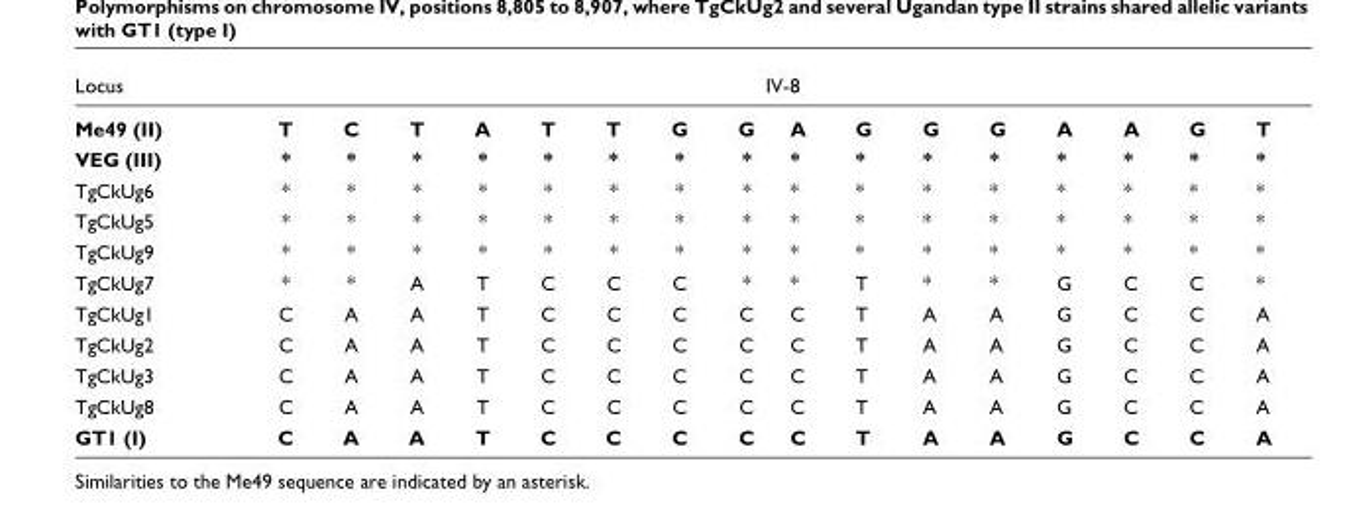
<table><thead><tr><td rowspan="2">Locus Me49 (II)</td><td colspan="16">IV-8</td></tr><tr><td>T</td><td>C</td><td>T</td><td>A</td><td>T</td><td>T</td><td>G</td><td>G</td><td>A</td><td>G</td><td>G</td><td>G</td><td>A</td><td>A</td><td>G</td><td>T</td></tr></thead><tbody><tr><td>VEG (III)</td><td>*</td><td>*</td><td>*</td><td>*</td><td>*</td><td>*</td><td>*</td><td>*</td><td>*</td><td>*</td><td>*</td><td>*</td><td>*</td><td>*</td><td>*</td><td>*</td></tr><tr><td>TgCkUg6</td><td>*</td><td>*</td><td>*</td><td>*</td><td>*</td><td>*</td><td>*</td><td>*</td><td>*</td><td>*</td><td>*</td><td>*</td><td>*</td><td>*</td><td>*</td><td>*</td></tr><tr><td>TgCkUg5</td><td>*</td><td>*</td><td>*</td><td>*</td><td>*</td><td>*</td><td>*</td><td>*</td><td>*</td><td>*</td><td>*</td><td>*</td><td>*</td><td>*</td><td>*</td><td>*</td></tr><tr><td>TgCkUg9</td><td>*</td><td>*</td><td>*</td><td>*</td><td>*</td><td>*</td><td>*</td><td>*</td><td>*</td><td>*</td><td>*</td><td>*</td><td>*</td><td>*</td><td>*</td><td>*</td></tr><tr><td>TgCkUg7</td><td>*</td><td>*</td><td>A</td><td>T</td><td>C</td><td>C</td><td>C</td><td>*</td><td>*</td><td>T</td><td>*</td><td>*</td><td>G</td><td>C</td><td>C</td><td>*</td></tr><tr><td>TgCkUg1</td><td>C</td><td>A</td><td>A</td><td>T</td><td>C</td><td>C</td><td>C</td><td>C</td><td>C</td><td>T</td><td>A</td><td>A</td><td>G</td><td>C</td><td>C</td><td>A</td></tr><tr><td>TgCkUg2</td><td>C</td><td>A</td><td>A</td><td>T</td><td>C</td><td>C</td><td>C</td><td>C</td><td>C</td><td>T</td><td>A</td><td>A</td><td>G</td><td>C</td><td>C</td><td>A</td></tr><tr><td>TgCkUg3</td><td>C</td><td>A</td><td>A</td><td>T</td><td>C</td><td>C</td><td>C</td><td>C</td><td>C</td><td>T</td><td>A</td><td>A</td><td>G</td><td>C</td><td>C</td><td>A</td></tr><tr><td>TgCkUg8</td><td>C</td><td>A</td><td>A</td><td>T</td><td>C</td><td>C</td><td>C</td><td>C</td><td>C</td><td>T</td><td>A</td><td>A</td><td>G</td><td>C</td><td>C</td><td>A</td></tr><tr><td>GT1 (I)</td><td>C</td><td>A</td><td>A</td><td>T</td><td>C</td><td>C</td><td>C</td><td>C</td><td>C</td><td>T</td><td>A</td><td>A</td><td>G</td><td>C</td><td>C</td><td>A</td></tr></tbody></table>